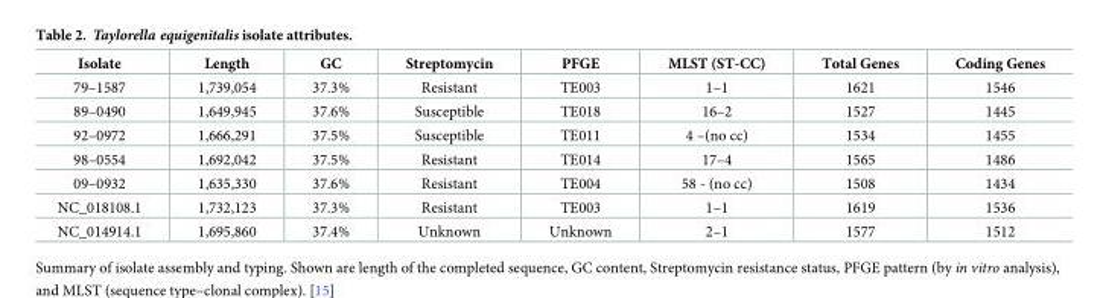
<table><thead><tr><td>Isolate</td><td>Length</td><td>GC</td><td>Streptomycin</td><td>PFGE</td><td>MLST (ST-CC)</td><td>Total Genes</td><td>Coding Genes</td></tr></thead><tbody><tr><td>79–1587</td><td>1,739,054</td><td>37.3%</td><td>Resistant</td><td>TE003</td><td>1–1</td><td>1621</td><td>1546</td></tr><tr><td>89–0490</td><td>1,649,945</td><td>37.6%</td><td>Susceptible</td><td>TE018</td><td>16–2</td><td>1527</td><td>1445</td></tr><tr><td>92–0972</td><td>1,666,291</td><td>37.5%</td><td>Susceptible</td><td>TE011</td><td>4 –(no cc)</td><td>1534</td><td>1455</td></tr><tr><td>98–0554</td><td>1,692,042</td><td>37.5%</td><td>Resistant</td><td>TE014</td><td>17–4</td><td>1565</td><td>1486</td></tr><tr><td>09–0932</td><td>1,635,330</td><td>37.6%</td><td>Resistant</td><td>TE004</td><td>58 - (no cc)</td><td>1508</td><td>1434</td></tr><tr><td>NC_018108.1</td><td>1,732,123</td><td>37.3%</td><td>Resistant</td><td>TE003</td><td>1–1</td><td>1619</td><td>1536</td></tr><tr><td>NC_014914.1</td><td>1,695,860</td><td>37.4%</td><td>Unknown</td><td>Unknown</td><td>2–1</td><td>1577</td><td>1512</td></tr></tbody></table>